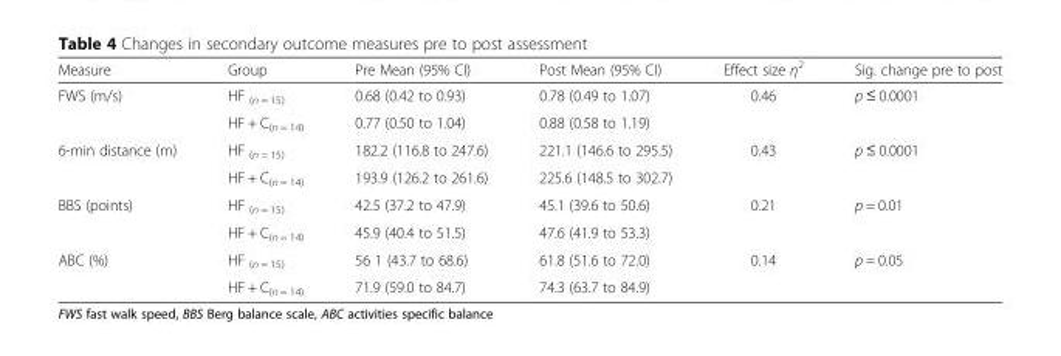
<table><thead><tr><td>Measure</td><td>Group</td><td>Pre Mean (95% CI)</td><td>Post Mean (95% CI)</td><td>Effect size η<sup>2</sup></td><td>Sig. change pre to post</td></tr></thead><tbody><tr><td rowspan="2">FWS (m/s)</td><td>HF <sub>(n = 15)</sub></td><td>0.68 (0.42 to 0.93)</td><td>0.78 (0.49 to 1.07)</td><td>0.46</td><td rowspan="2">p ≤ 0.0001</td></tr><tr><td>HF + C<sub>(n = 14)</sub></td><td>0.77 (0.50 to 1.04)</td><td>0.88 (0.58 to 1.19)</td><td></td></tr><tr><td rowspan="2">6-min distance (m)</td><td>HF <sub>(n = 15)</sub></td><td>182.2 (116.8 to 247.6)</td><td>221.1 (146.6 to 295.5)</td><td>0.43</td><td rowspan="2">p ≤ 0.0001</td></tr><tr><td>HF + C<sub>(n = 14)</sub></td><td>193.9 (126.2 to 261.6)</td><td>225.6 (148.5 to 302.7)</td><td></td></tr><tr><td rowspan="2">BBS (points)</td><td>HF <sub>(n = 15)</sub></td><td>42.5 (37.2 to 47.9)</td><td>45.1 (39.6 to 50.6)</td><td>0.21</td><td rowspan="2">p = 0.01</td></tr><tr><td>HF + C<sub>(n = 14)</sub></td><td>45.9 (40.4 to 51.5)</td><td>47.6 (41.9 to 53.3)</td><td></td></tr><tr><td rowspan="2">ABC (%)</td><td>HF <sub>(n = 15)</sub></td><td>56 1 (43.7 to 68.6)</td><td>61.8 (51.6 to 72.0)</td><td>0.14</td><td rowspan="2">p = 0.05</td></tr><tr><td>HF + C<sub>(n = 14)</sub></td><td>71.9 (59.0 to 84.7)</td><td>74.3 (63.7 to 84.9)</td><td></td></tr></tbody></table>